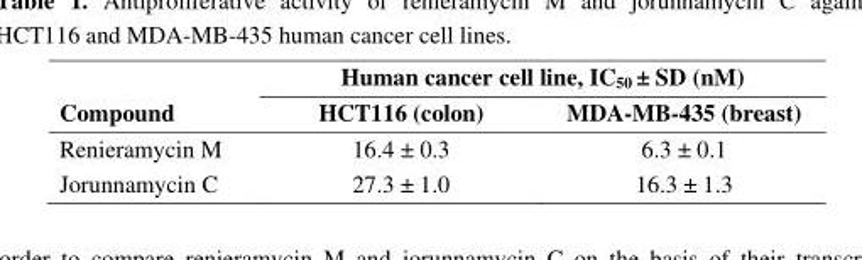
<table><thead><tr><td rowspan="2">Compound</td><td colspan="2">Human cancer cell line, IC<sub>50</sub> ± SD (nM)</td></tr><tr><td>HCT116 (colon)</td><td>MDA-MB-435 (breast)</td></tr></thead><tbody><tr><td>Renieramycin M</td><td>16.4 ± 0.3</td><td>6.3 ± 0.1</td></tr><tr><td>Jorunnamycin C</td><td>27.3 ± 1.0</td><td>16.3 ± 1.3</td></tr></tbody></table>